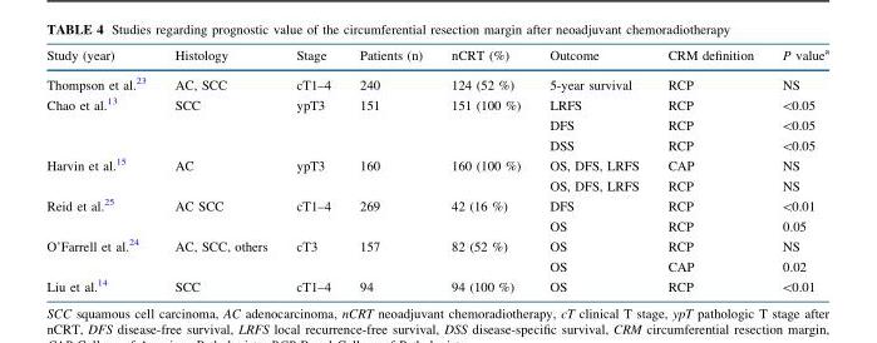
<table><thead><tr><td>Study (year)</td><td>Histology</td><td>Stage</td><td>Patients (n)</td><td>nCRT (%)</td><td>Outcome</td><td>CRM definition</td><td>P value<sup>a</sup></td></tr></thead><tbody><tr><td>Thompson et al.<sup>23</sup></td><td>AC, SCC</td><td>cT1–4</td><td>240</td><td>124 (52 %)</td><td>5-year survival</td><td>RCP</td><td>NS</td></tr><tr><td rowspan="3">Chao et al.<sup>13</sup></td><td>SCC</td><td>ypT3</td><td>151</td><td rowspan="3">151 (100 %)</td><td>LRFS</td><td>RCP</td><td>&lt;0.05</td></tr><tr><td rowspan="2"></td><td rowspan="2"></td><td rowspan="2"></td><td>DFS</td><td>RCP</td><td>&lt;0.05</td></tr><tr><td>DSS</td><td>RCP</td><td>&lt;0.05</td></tr><tr><td rowspan="2">Harvin et al.<sup>15</sup></td><td>AC</td><td>ypT3</td><td>160</td><td rowspan="2">160 (100 %)</td><td>OS, DFS, LRFS</td><td>CAP</td><td>NS</td></tr><tr><td></td><td></td><td></td><td>OS, DFS, LRFS</td><td>RCP</td><td>NS</td></tr><tr><td rowspan="2">Reid et al.<sup>25</sup></td><td rowspan="2">AC SCC</td><td rowspan="2">cT1–4</td><td rowspan="2">269</td><td rowspan="2">42 (16 %)</td><td>DFS</td><td>RCP</td><td>&lt;0.01</td></tr><tr><td>OS</td><td>RCP</td><td>0.05</td></tr><tr><td rowspan="2">O’Farrell et al.<sup>24</sup></td><td rowspan="2">AC, SCC, others</td><td>cT3</td><td>157</td><td rowspan="2">82 (52 %)</td><td>OS</td><td>RCP</td><td>NS</td></tr><tr><td></td><td></td><td>OS</td><td>CAP</td><td>0.02</td></tr><tr><td>Liu et al.<sup>14</sup></td><td>SCC</td><td>cT1–4</td><td>94</td><td>94 (100 %)</td><td>OS</td><td>RCP</td><td>&lt;0.01</td></tr></tbody></table>